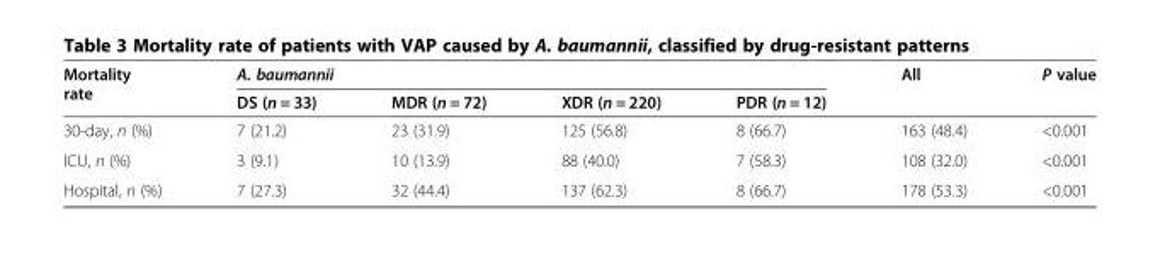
<table><thead><tr><td rowspan="2">Mortality rate</td><td colspan="4">A. baumannii</td><td rowspan="2">All</td><td rowspan="2">P value</td></tr><tr><td>DS (n = 33)</td><td>MDR (n = 72)</td><td>XDR (n = 220)</td><td>PDR (n = 12)</td></tr></thead><tbody><tr><td>30-day, n (%)</td><td>7 (21.2)</td><td>23 (31.9)</td><td>125 (56.8)</td><td>8 (66.7)</td><td>163 (48.4)</td><td>&lt;0.001</td></tr><tr><td>ICU, n (%)</td><td>3 (9.1)</td><td>10 (13.9)</td><td>88 (40.0)</td><td>7 (58.3)</td><td>108 (32.0)</td><td>&lt;0.001</td></tr><tr><td>Hospital, n (%)</td><td>7 (27.3)</td><td>32 (44.4)</td><td>137 (62.3)</td><td>8 (66.7)</td><td>178 (53.3)</td><td>&lt;0.001</td></tr></tbody></table>